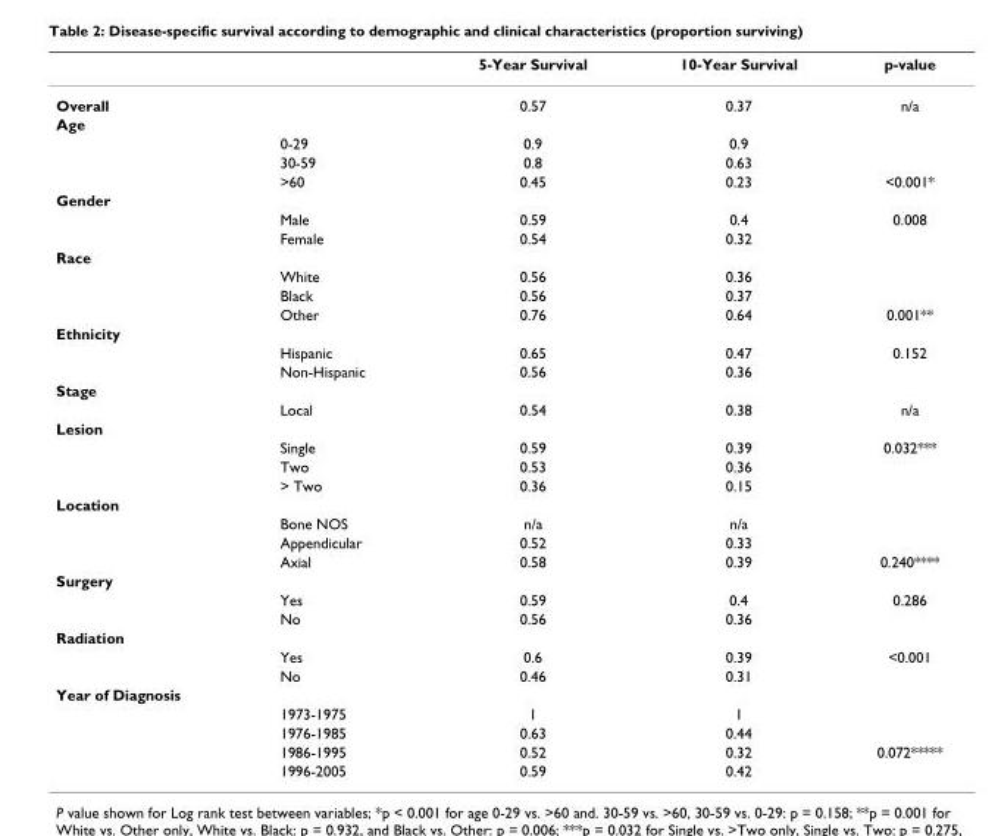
<table><thead><tr><td></td><td></td><td>5-Year Survival</td><td>10-Year Survival</td><td>p-value</td></tr></thead><tbody><tr><td>Overall</td><td></td><td>0.57</td><td>0.37</td><td>n/a</td></tr><tr><td colspan="5">Age</td></tr><tr><td></td><td>0-29</td><td>0.9</td><td>0.9</td><td></td></tr><tr><td></td><td>30-59</td><td>0.8</td><td>0.63</td><td></td></tr><tr><td></td><td>&gt;60</td><td>0.45</td><td>0.23</td><td>&lt;0.001*</td></tr><tr><td colspan="5">Gender</td></tr><tr><td></td><td>Male</td><td>0.59</td><td>0.4</td><td>0.008</td></tr><tr><td></td><td>Female</td><td>0.54</td><td>0.32</td><td></td></tr><tr><td colspan="5">Race</td></tr><tr><td></td><td>White</td><td>0.56</td><td>0.36</td><td></td></tr><tr><td></td><td>Black</td><td>0.56</td><td>0.37</td><td></td></tr><tr><td></td><td>Other</td><td>0.76</td><td>0.64</td><td>0.001**</td></tr><tr><td colspan="5">Ethnicity</td></tr><tr><td></td><td>Hispanic</td><td>0.65</td><td>0.47</td><td>0.152</td></tr><tr><td></td><td>Non-Hispanic</td><td>0.56</td><td>0.36</td><td></td></tr><tr><td colspan="5">Stage</td></tr><tr><td></td><td>Local</td><td>0.54</td><td>0.38</td><td>n/a</td></tr><tr><td colspan="5">Lesion</td></tr><tr><td></td><td>Single</td><td>0.59</td><td>0.39</td><td>0.032***</td></tr><tr><td></td><td>Two</td><td>0.53</td><td>0.36</td><td></td></tr><tr><td></td><td>&gt; Two</td><td>0.36</td><td>0.15</td><td></td></tr><tr><td colspan="5">Location</td></tr><tr><td></td><td>Bone NOS</td><td>n/a</td><td>n/a</td><td></td></tr><tr><td></td><td>Appendicular</td><td>0.52</td><td>0.33</td><td></td></tr><tr><td></td><td>Axial</td><td>0.58</td><td>0.39</td><td>0.240****</td></tr><tr><td colspan="5">Surgery</td></tr><tr><td></td><td>Yes</td><td>0.59</td><td>0.4</td><td>0.286</td></tr><tr><td></td><td>No</td><td>0.56</td><td>0.36</td><td></td></tr><tr><td colspan="5">Radiation</td></tr><tr><td></td><td>Yes</td><td>0.6</td><td>0.39</td><td>&lt;0.001</td></tr><tr><td></td><td>No</td><td>0.46</td><td>0.31</td><td></td></tr><tr><td colspan="5">Year of Diagnosis</td></tr><tr><td></td><td>1973-1975</td><td>1</td><td>1</td><td></td></tr><tr><td></td><td>1976-1985</td><td>0.63</td><td>0.44</td><td></td></tr><tr><td></td><td>1986-1995</td><td>0.52</td><td>0.32</td><td>0.072*****</td></tr><tr><td></td><td>1996-2005</td><td>0.59</td><td>0.42</td><td></td></tr></tbody></table>